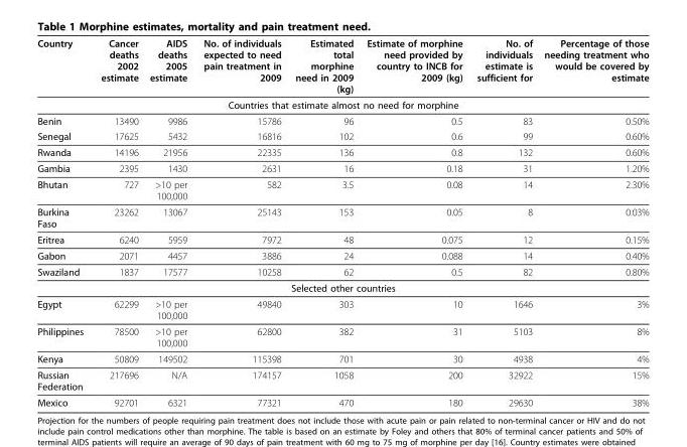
<table><thead><tr><td>Country</td><td>Cancer deaths 2002 estimate</td><td>AIDS deaths 2005 estimate</td><td>No. of individuals expected to need pain treatment in 2009</td><td>Estimated total morphine need in 2009 (kg)</td><td>Estimate of morphine need provided by country to INCB for 2009 (kg)</td><td>No. of individuals estimate is sufficient for</td><td>Percentage of those needing treatment who would be covered by estimate</td></tr></thead><tbody><tr><td colspan="8">Countries that estimate almost no need for morphine</td></tr><tr><td>Benin</td><td>13490</td><td>9986</td><td>15786</td><td>96</td><td>0.5</td><td>83</td><td>0.50%</td></tr><tr><td>Senegal</td><td>17625</td><td>5432</td><td>16816</td><td>102</td><td>0.6</td><td>99</td><td>0.60%</td></tr><tr><td>Rwanda</td><td>14196</td><td>21956</td><td>22335</td><td>136</td><td>0.8</td><td>132</td><td>0.60%</td></tr><tr><td>Gambia</td><td>2395</td><td>1430</td><td>2631</td><td>16</td><td>0.18</td><td>31</td><td>1.20%</td></tr><tr><td>Bhutan</td><td>727</td><td>&gt;10 per 100,000</td><td>582</td><td>3.5</td><td>0.08</td><td>14</td><td>2.30%</td></tr><tr><td>Burkina Faso</td><td>23262</td><td>13067</td><td>25143</td><td>153</td><td>0.05</td><td>8</td><td>0.03%</td></tr><tr><td>Eritrea</td><td>6240</td><td>5959</td><td>7972</td><td>48</td><td>0.075</td><td>12</td><td>0.15%</td></tr><tr><td>Gabon</td><td>2071</td><td>4457</td><td>3886</td><td>24</td><td>0.088</td><td>14</td><td>0.40%</td></tr><tr><td>Swaziland</td><td>1837</td><td>17577</td><td>10258</td><td>62</td><td>0.5</td><td>82</td><td>0.80%</td></tr><tr><td colspan="8">Selected other countries</td></tr><tr><td>Egypt</td><td>62299</td><td>&gt;10 per 100,000</td><td>49840</td><td>303</td><td>10</td><td>1646</td><td>3%</td></tr><tr><td>Philippines</td><td>78500</td><td>&gt;10 per 100,000</td><td>62800</td><td>382</td><td>31</td><td>5103</td><td>8%</td></tr><tr><td>Kenya</td><td>50809</td><td>149502</td><td>115398</td><td>701</td><td>30</td><td>4938</td><td>4%</td></tr><tr><td>Russian Federation</td><td>217696</td><td>N/A</td><td>174157</td><td>1058</td><td>200</td><td>32922</td><td>15%</td></tr><tr><td>Mexico</td><td>92701</td><td>6321</td><td>77321</td><td>470</td><td>180</td><td>29630</td><td>38%</td></tr></tbody></table>